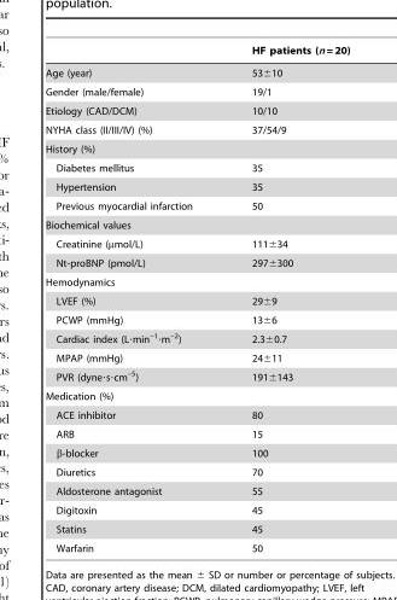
<table><thead><tr><td></td><td>HF patients (n = 20)</td></tr></thead><tbody><tr><td>Age (year)</td><td>53±10</td></tr><tr><td>Gender (male/female)</td><td>19/1</td></tr><tr><td>Etiology (CAD/DCM)</td><td>10/10</td></tr><tr><td>NYHA class (II/III/IV) (%)</td><td>37/54/9</td></tr><tr><td colspan="2">History (%)</td></tr><tr><td>Diabetes mellitus</td><td>35</td></tr><tr><td>Hypertension</td><td>35</td></tr><tr><td>Previous myocardial infarction</td><td>50</td></tr><tr><td colspan="2">Biochemical values</td></tr><tr><td>Creatinine (µmol/L)</td><td>111±34</td></tr><tr><td>Nt-proBNP (pmol/L)</td><td>297±300</td></tr><tr><td colspan="2">Hemodynamics</td></tr><tr><td>LVEF (%)</td><td>29±9</td></tr><tr><td>PCWP (mmHg)</td><td>13±6</td></tr><tr><td>Cardiac index (L·min<sup>–1</sup>·m<sup>–2</sup>)</td><td>2.3±0.7</td></tr><tr><td>MPAP (mmHg)</td><td>24±11</td></tr><tr><td>PVR (dyne·s·cm<sup>–5</sup>)</td><td>191±143</td></tr><tr><td colspan="2">Medication (%)</td></tr><tr><td>ACE inhibitor</td><td>80</td></tr><tr><td>ARB</td><td>15</td></tr><tr><td>β-blocker</td><td>100</td></tr><tr><td>Diuretics</td><td>70</td></tr><tr><td>Aldosterone antagonist</td><td>55</td></tr><tr><td>Digitoxin</td><td>45</td></tr><tr><td>Statins</td><td>45</td></tr><tr><td>Warfarin</td><td>50</td></tr></tbody></table>